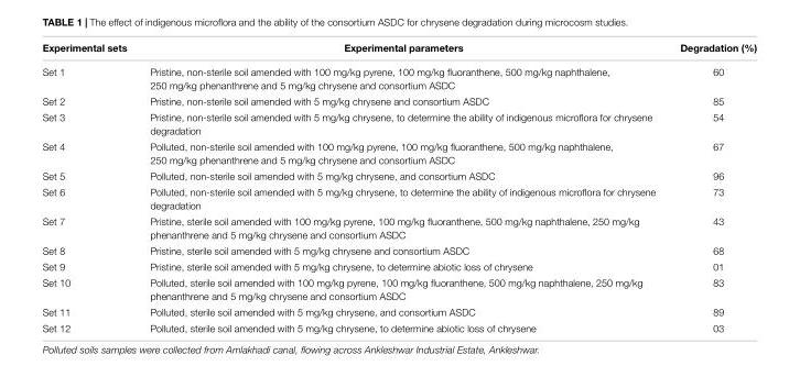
<table><thead><tr><td>Experimental sets</td><td>Experimental parameters</td><td>Degradation (%)</td></tr></thead><tbody><tr><td>Set 1</td><td>Pristine, non-sterile soil amended with 100 mg/kg pyrene, 100 mg/kg fluoranthene, 500 mg/kg naphthalene, 250 mg/kg phenanthrene and 5 mg/kg chrysene and consortium ASDC</td><td>60</td></tr><tr><td>Set 2</td><td>Pristine, non-sterile soil amended with 5 mg/kg chrysene and consortium ASDC</td><td>85</td></tr><tr><td>Set 3</td><td>Pristine, non-sterile soil amended with 5 mg/kg chrysene, to determine the ability of indigenous microflora for chrysene degradation</td><td>54</td></tr><tr><td>Set 4</td><td>Polluted, non-sterile soil amended with 100 mg/kg pyrene, 100 mg/kg fluoranthene, 500 mg/kg naphthalene, 250 mg/kg phenanthrene and 5 mg/kg chrysene and consortium ASDC</td><td>67</td></tr><tr><td>Set 5</td><td>Polluted, non-sterile soil amended with 5 mg/kg chrysene, and consortium ASDC</td><td>96</td></tr><tr><td>Set 6</td><td>Polluted, non-sterile soil amended with 5 mg/kg chrysene, to determine the ability of indigenous microflora for chrysene degradation</td><td>73</td></tr><tr><td>Set 7</td><td>Pristine, sterile soil amended with 100 mg/kg pyrene, 100 mg/kg fluoranthene, 500 mg/kg naphthalene, 250 mg/kg phenanthrene and 5 mg/kg chrysene and consortium ASDC</td><td>43</td></tr><tr><td>Set 8</td><td>Pristine, sterile soil amended with 5 mg/kg chrysene and consortium ASDC</td><td>68</td></tr><tr><td>Set 9</td><td>Pristine, sterile soil amended with 5 mg/kg chrysene, to determine abiotic loss of chrysene</td><td>01</td></tr><tr><td>Set 10</td><td>Polluted, sterile soil amended with 100 mg/kg pyrene, 100 mg/kg fluoranthene, 500 mg/kg naphthalene, 250 mg/kg phenanthrene and 5 mg/kg chrysene and consortium ASDC</td><td>83</td></tr><tr><td>Set 11</td><td>Polluted, sterile soil amended with 5 mg/kg chrysene, and consortium ASDC</td><td>89</td></tr><tr><td>Set 12</td><td>Polluted, sterile soil amended with 5 mg/kg chrysene, to determine abiotic loss of chrysene</td><td>03</td></tr></tbody></table>